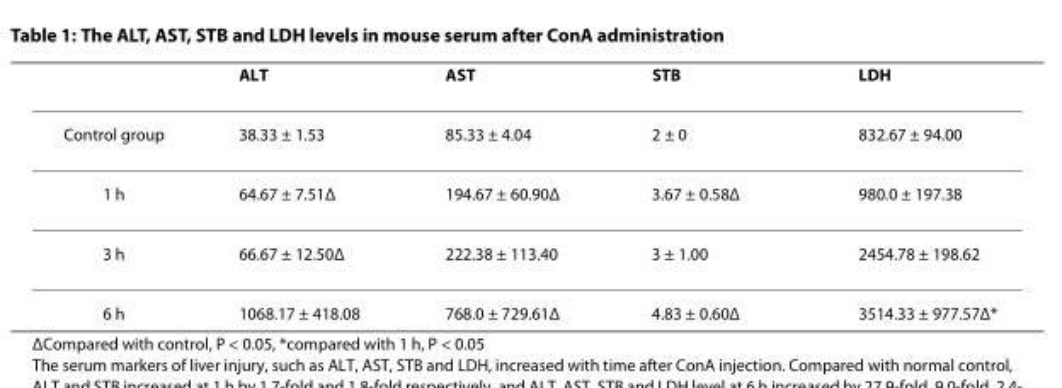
<table><thead><tr><td></td><td>ALT</td><td>AST</td><td>STB</td><td>LDH</td></tr></thead><tbody><tr><td>Control group</td><td>38.33 ± 1.53</td><td>85.33 ± 4.04</td><td>2 ± 0</td><td>832.67 ± 94.00</td></tr><tr><td>1 h</td><td>64.67 ± 7.51Δ</td><td>194.67 ± 60.90Δ</td><td>3.67 ± 0.58Δ</td><td>980.0 ± 197.38</td></tr><tr><td>3 h</td><td>66.67 ± 12.50Δ</td><td>222.38 ± 113.40</td><td>3 ± 1.00</td><td>2454.78 ± 198.62</td></tr><tr><td>6 h</td><td>1068.17 ± 418.08</td><td>768.0 ± 729.61Δ</td><td>4.83 ± 0.60Δ</td><td>3514.33 ± 977.57Δ*</td></tr></tbody></table>